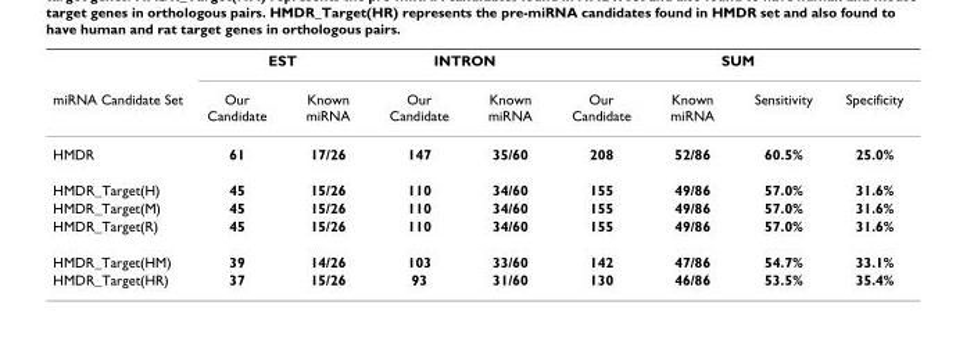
<table><thead><tr><td rowspan="2">miRNA Candidate Set</td><td colspan="2">EST</td><td colspan="2">INTRON</td><td colspan="4">SUM</td></tr><tr><td>Our Candidate</td><td>Known miRNA</td><td>Our Candidate</td><td>Known miRNA</td><td>Our Candidate</td><td>Known miRNA</td><td>Sensitivity</td><td>Specificity</td></tr></thead><tbody><tr><td>HMDR</td><td>61</td><td>17/26</td><td>147</td><td>35/60</td><td>208</td><td>52/86</td><td>60.5%</td><td>25.0%</td></tr><tr><td>HMDR_Target(H)</td><td>45</td><td>15/26</td><td>110</td><td>34/60</td><td>155</td><td>49/86</td><td>57.0%</td><td>31.6%</td></tr><tr><td>HMDR_Target(M)</td><td>45</td><td>15/26</td><td>110</td><td>34/60</td><td>155</td><td>49/86</td><td>57.0%</td><td>31.6%</td></tr><tr><td>HMDR_Target(R)</td><td>45</td><td>15/26</td><td>110</td><td>34/60</td><td>155</td><td>49/86</td><td>57.0%</td><td>31.6%</td></tr><tr><td>HMDR_Target(HM)</td><td>39</td><td>14/26</td><td>103</td><td>33/60</td><td>142</td><td>47/86</td><td>54.7%</td><td>33.1%</td></tr><tr><td>HMDR_Target(HR)</td><td>37</td><td>15/26</td><td>93</td><td>31/60</td><td>130</td><td>46/86</td><td>53.5%</td><td>35.4%</td></tr></tbody></table>